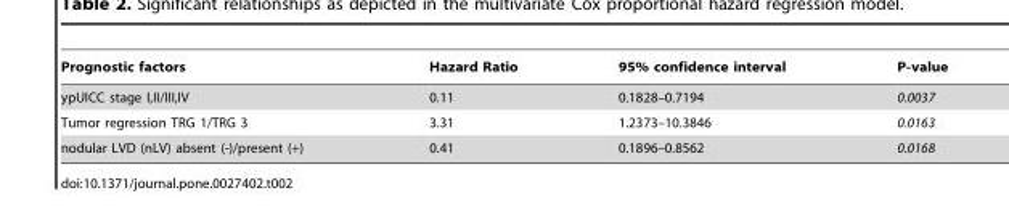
<table><thead><tr><td>Prognostic factors</td><td>Hazard Ratio</td><td>95% confidence interval</td><td>P-value</td></tr></thead><tbody><tr><td>ypUICC stage I,II/III,IV</td><td>0.11</td><td>0.1828–0.7194</td><td>0.0037</td></tr><tr><td>Tumor regression TRG 1/TRG 3</td><td>3.31</td><td>1.2373–10.3846</td><td>0.0163</td></tr><tr><td>nodular LVD (nLV) absent (-)/present (+)</td><td>0.41</td><td>0.1896–0.8562</td><td>0.0168</td></tr></tbody></table>